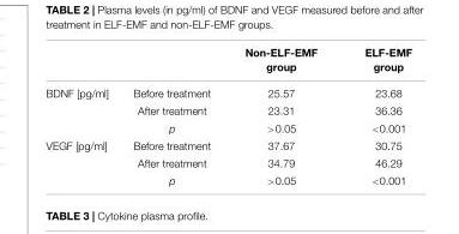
<table><thead><tr><td></td><td></td><td>Non-ELF-EMF group</td><td>ELF-EMF group</td></tr></thead><tbody><tr><td rowspan="3">BDNF [pg/ml]</td><td>Before treatment</td><td>25.57</td><td>23.68</td></tr><tr><td>After treatment</td><td>23.31</td><td>36.36</td></tr><tr><td>p</td><td>&gt;0.05</td><td>&lt;0.001</td></tr><tr><td rowspan="3">VEGF [pg/ml]</td><td>Before treatment</td><td>37.67</td><td>30.75</td></tr><tr><td>After treatment</td><td>34.79</td><td>46.29</td></tr><tr><td>p</td><td>&gt;0.05</td><td>&lt;0.001</td></tr></tbody></table>